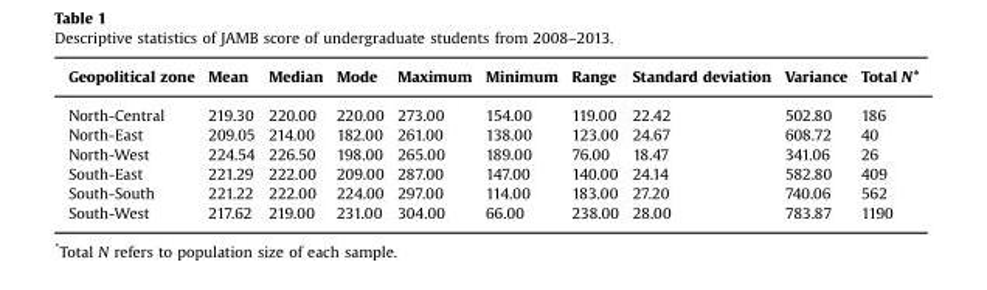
<table><thead><tr><td>Geopolitical zone</td><td>Mean</td><td>Median</td><td>Mode</td><td>Maximum</td><td>Minimum</td><td>Range</td><td>Standard deviation</td><td>Variance</td><td>Total N*</td></tr></thead><tbody><tr><td>North-Central</td><td>219.30</td><td>220.00</td><td>220.00</td><td>273.00</td><td>154.00</td><td>119.00</td><td>22.42</td><td>502.80</td><td>186</td></tr><tr><td>North-East</td><td>209.05</td><td>214.00</td><td>182.00</td><td>261.00</td><td>138.00</td><td>123.00</td><td>24.67</td><td>608.72</td><td>40</td></tr><tr><td>North-West</td><td>224.54</td><td>226.50</td><td>198.00</td><td>265.00</td><td>189.00</td><td>76.00</td><td>18.47</td><td>341.06</td><td>26</td></tr><tr><td>South-East</td><td>221.29</td><td>222.00</td><td>209.00</td><td>287.00</td><td>147.00</td><td>140.00</td><td>24.14</td><td>582.80</td><td>409</td></tr><tr><td>South-South</td><td>221.22</td><td>222.00</td><td>224.00</td><td>297.00</td><td>114.00</td><td>183.00</td><td>27.20</td><td>740.06</td><td>562</td></tr><tr><td>South-West</td><td>217.62</td><td>219.00</td><td>231.00</td><td>304.00</td><td>66.00</td><td>238.00</td><td>28.00</td><td>783.87</td><td>1190</td></tr></tbody></table>